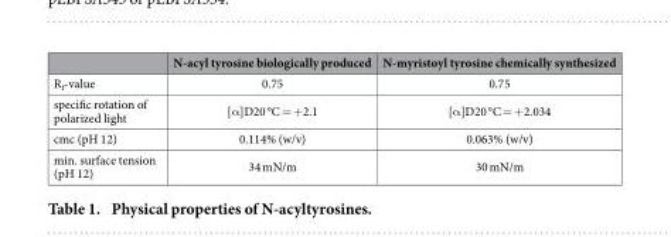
<table><thead><tr><td></td><td>N-acyl tyrosine biologically produced</td><td>N-myristoyl tyrosine chemically synthesized</td></tr></thead><tbody><tr><td>R<sub>f</sub>-value</td><td>0.75</td><td>0.75</td></tr><tr><td>specific rotation of polarized light</td><td>[α ]D20 °C = + 2.1</td><td>[α ]D20 °C = + 2.034</td></tr><tr><td>cmc (pH 12)</td><td>0.114% (w/v)</td><td>0.063% (w/v)</td></tr><tr><td>min. surface tension (pH 12)</td><td>34 mN/m</td><td>30 mN/m</td></tr></tbody></table>